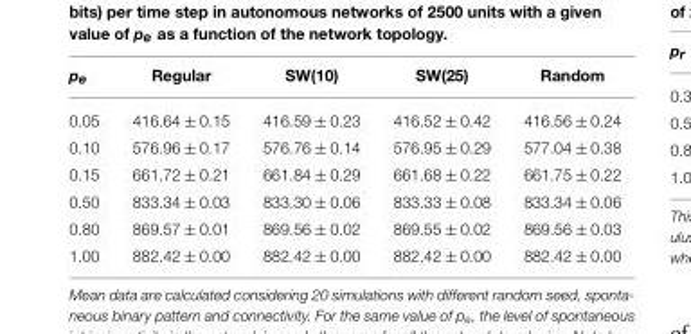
<table><thead><tr><td>p<sub>e</sub></td><td>Regular</td><td>SW(10)</td><td>SW(25)</td><td>Random</td></tr></thead><tbody><tr><td>0.05</td><td>416.64 ± 0.15</td><td>416.59 ± 0.23</td><td>416.52 ± 0.42</td><td>416.56 ± 0.24</td></tr><tr><td>0.10</td><td>576.96 ± 0.17</td><td>576.76 ± 0.14</td><td>576.95 ± 0.29</td><td>577.04 ± 0.38</td></tr><tr><td>0.15</td><td>661.72 ± 0.21</td><td>661.84 ± 0.29</td><td>661.68 ± 0.22</td><td>661.75 ± 0.22</td></tr><tr><td>0.50</td><td>833.34 ± 0.03</td><td>833.30 ± 0.06</td><td>833.33 ± 0.08</td><td>833.34 ± 0.06</td></tr><tr><td>0.80</td><td>869.57 ± 0.01</td><td>869.56 ± 0.02</td><td>869.55 ± 0.02</td><td>869.56 ± 0.03</td></tr><tr><td>1.00</td><td>882.42 ± 0.00</td><td>882.42 ± 0.00</td><td>882.42 ± 0.00</td><td>882.42 ± 0.00</td></tr></tbody></table>